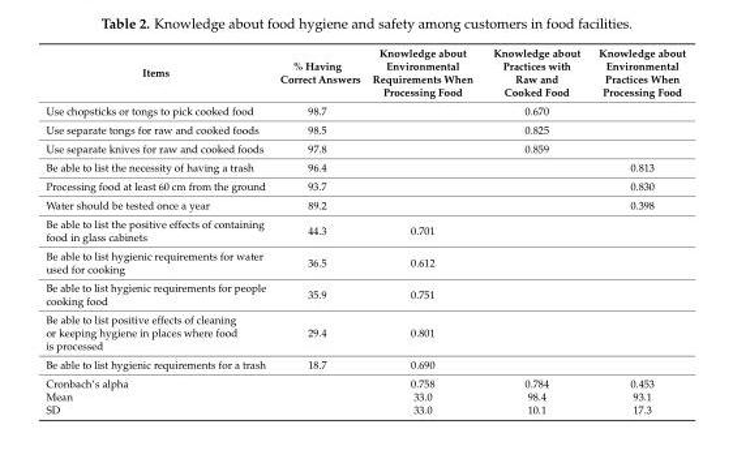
<table><thead><tr><td>Items</td><td>% Having Correct Answers</td><td>Knowledge about Environmental Requirements When Processing Food</td><td>Knowledge about Practices with Raw and Cooked Food</td><td>Knowledge about Environmental Practices When Processing Food</td></tr></thead><tbody><tr><td>Use chopsticks or tongs to pick cooked food</td><td>98.7</td><td></td><td>0.670</td><td></td></tr><tr><td>Use separate tongs for raw and cooked foods</td><td>98.5</td><td></td><td>0.825</td><td></td></tr><tr><td>Use separate knives for raw and cooked foods</td><td>97.8</td><td></td><td>0.859</td><td></td></tr><tr><td>Be able to list the necessity of having a trash</td><td>96.4</td><td></td><td></td><td>0.813</td></tr><tr><td>Processing food at least 60 cm from the ground</td><td>93.7</td><td></td><td></td><td>0.830</td></tr><tr><td>Water should be tested once a year</td><td>89.2</td><td></td><td></td><td>0.398</td></tr><tr><td>Be able to list the positive effects of containing food in glass cabinets</td><td>44.3</td><td>0.701</td><td></td><td></td></tr><tr><td>Be able to list hygienic requirements for water used for cooking</td><td>36.5</td><td>0.612</td><td></td><td></td></tr><tr><td>Be able to list hygienic requirements for people cooking food</td><td>35.9</td><td>0.751</td><td></td><td></td></tr><tr><td>Be able to list positive effects of cleaning or keeping hygiene in places where food is processed</td><td>29.4</td><td>0.801</td><td></td><td></td></tr><tr><td>Be able to list hygienic requirements for a trash</td><td>18.7</td><td>0.690</td><td></td><td></td></tr><tr><td>Cronbach’s alpha</td><td rowspan="3"></td><td>0.758</td><td>0.784</td><td>0.453</td></tr><tr><td>Mean</td><td>33.0</td><td>98.4</td><td>93.1</td></tr><tr><td>SD</td><td>33.0</td><td>10.1</td><td>17.3</td></tr></tbody></table>